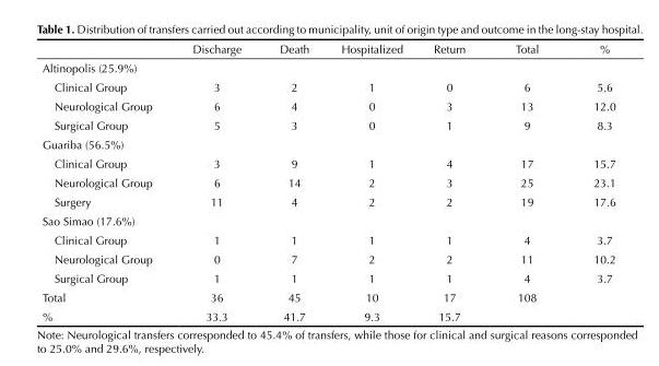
<table><thead><tr><td></td><td>Discharge</td><td>Death</td><td>Hospitalized</td><td>Return</td><td>Total</td><td>%</td></tr></thead><tbody><tr><td colspan="7">Altinopolis (25.9%)</td></tr><tr><td>Clinical Group</td><td>3</td><td>2</td><td>1</td><td>0</td><td>6</td><td>5.6</td></tr><tr><td>Neurological Group</td><td>6</td><td>4</td><td>0</td><td>3</td><td>13</td><td>12.0</td></tr><tr><td>Surgical Group</td><td>5</td><td>3</td><td>0</td><td>1</td><td>9</td><td>8.3</td></tr><tr><td colspan="7">Guariba (56.5%)</td></tr><tr><td>Clinical Group</td><td>3</td><td>9</td><td>1</td><td>4</td><td>17</td><td>15.7</td></tr><tr><td>Neurological Group</td><td>6</td><td>14</td><td>2</td><td>3</td><td>25</td><td>23.1</td></tr><tr><td>Surgery</td><td>11</td><td>4</td><td>2</td><td>2</td><td>19</td><td>17.6</td></tr><tr><td colspan="7">Sao Simao (17.6%)</td></tr><tr><td>Clinical Group</td><td>1</td><td>1</td><td>1</td><td>1</td><td>4</td><td>3.7</td></tr><tr><td>Neurological Group</td><td>0</td><td>7</td><td>2</td><td>2</td><td>11</td><td>10.2</td></tr><tr><td>Surgical Group</td><td>1</td><td>1</td><td>1</td><td>1</td><td>4</td><td>3.7</td></tr><tr><td>Total</td><td>36</td><td>45</td><td>10</td><td>17</td><td>108</td><td></td></tr><tr><td>%</td><td>33.3</td><td>41.7</td><td>9.3</td><td>15.7</td><td></td><td></td></tr></tbody></table>